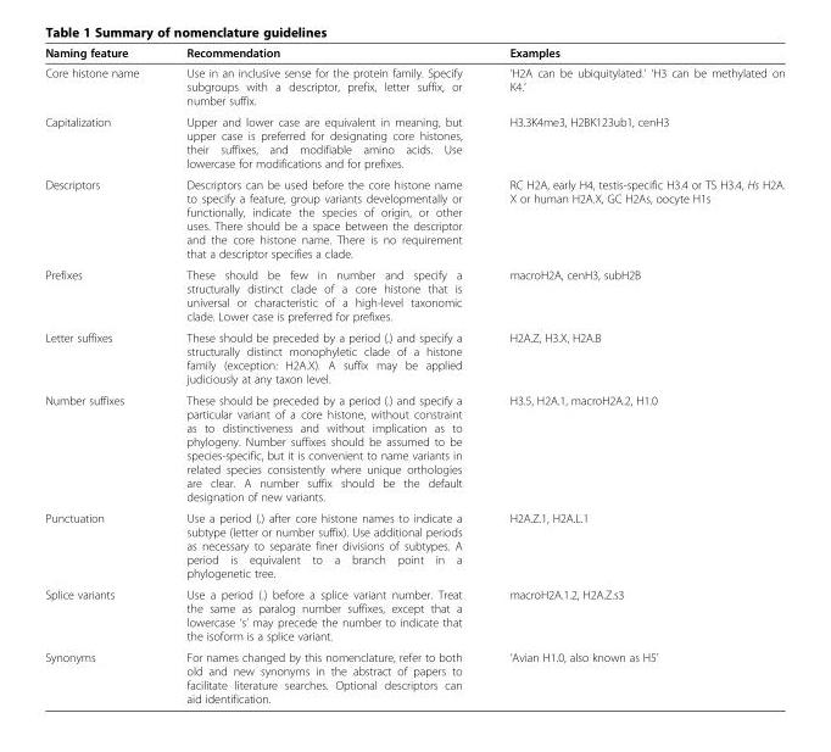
<table><thead><tr><td>Naming feature</td><td>Recommendation</td><td>Examples</td></tr></thead><tbody><tr><td>Core histone name</td><td>Use in an inclusive sense for the protein family. Specify subgroups with a descriptor, prefix, letter suffix, or number suffix.</td><td>‘H2A can be ubiquitylated.’ ‘H3 can be methylated on K4.’</td></tr><tr><td>Capitalization</td><td>Upper and lower case are equivalent in meaning, but upper case is preferred for designating core histones, their suffixes, and modifiable amino acids. Use lowercase for modifications and for prefixes.</td><td>H3.3K4me3, H2BK123ub1, cenH3</td></tr><tr><td>Descriptors</td><td>Descriptors can be used before the core histone name to specify a feature, group variants developmentally or functionally, indicate the species of origin, or other uses. There should be a space between the descriptor and the core histone name. There is no requirement that a descriptor specifies a clade.</td><td>RC H2A, early H4, testis-specific H3.4 or TS H3.4, Hs H2A. X or human H2A.X, GC H2As, oocyte H1s</td></tr><tr><td>Prefixes</td><td>These should be few in number and specify a structurally distinct clade of a core histone that is universal or characteristic of a high-level taxonomic clade. Lower case is preferred for prefixes.</td><td>macroH2A, cenH3, subH2B</td></tr><tr><td>Letter suffixes</td><td>These should be preceded by a period (.) and specify a structurally distinct monophyletic clade of a histone family (exception: H2A.X). A suffix may be applied judiciously at any taxon level.</td><td>H2A.Z, H3.X, H2A.B</td></tr><tr><td>Number suffixes</td><td>These should be preceded by a period (.) and specify a particular variant of a core histone, without constraint as to distinctiveness and without implication as to phylogeny. Number suffixes should be assumed to be species-specific, but it is convenient to name variants in related species consistently where unique orthologies are clear. A number suffix should be the default designation of new variants.</td><td>H3.5, H2A.1, macroH2A.2, H1.0</td></tr><tr><td>Punctuation</td><td>Use a period (.) after core histone names to indicate a subtype (letter or number suffix). Use additional periods as necessary to separate finer divisions of subtypes. A period is equivalent to a branch point in a phylogenetic tree.</td><td>H2A.Z.1, H2A.L.1</td></tr><tr><td>Splice variants</td><td>Use a period (.) before a splice variant number. Treat the same as paralog number suffixes, except that a lowercase ‘s’ may precede the number to indicate that the isoform is a splice variant.</td><td>macroH2A.1.2, H2A.Z.s3</td></tr><tr><td>Synonyms</td><td>For names changed by this nomenclature, refer to both old and new synonyms in the abstract of papers to facilitate literature searches. Optional descriptors can aid identification.</td><td>‘Avian H1.0, also known as H5’</td></tr></tbody></table>